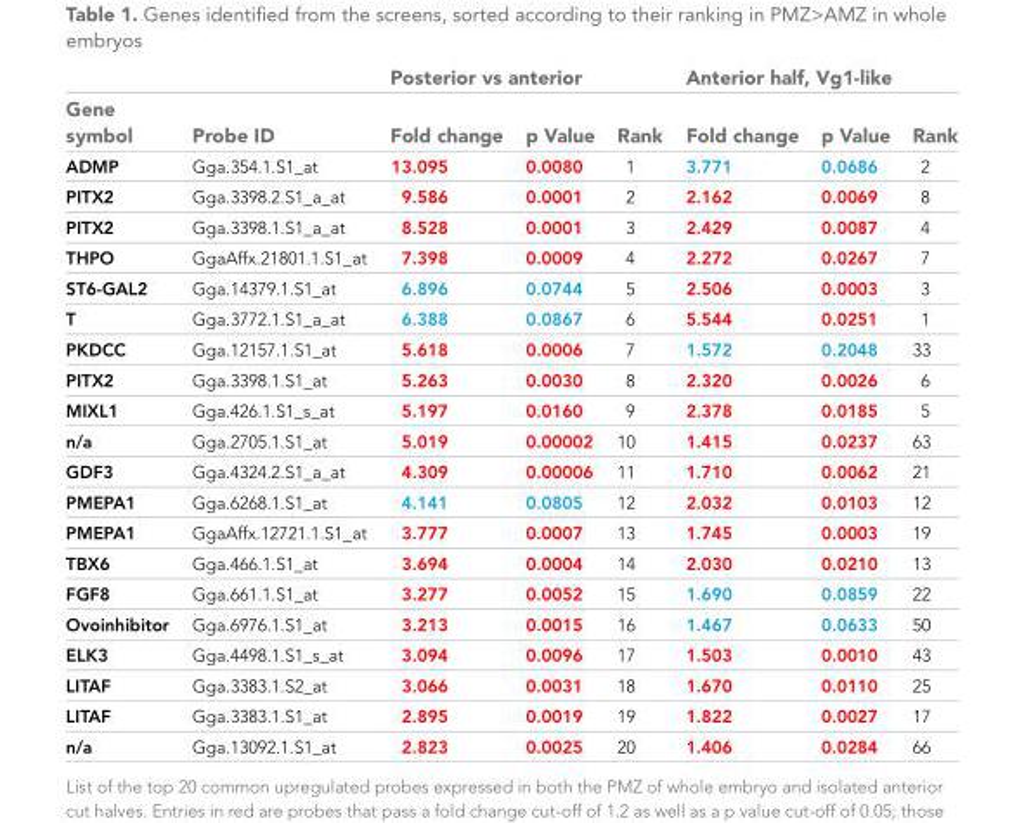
<table><thead><tr><td rowspan="2">Gene symbol</td><td rowspan="2">Probe ID</td><td colspan="3">Posterior vs anterior</td><td colspan="3">Anterior half, Vg1-like</td></tr><tr><td>Fold change</td><td>p Value</td><td>Rank</td><td>Fold change</td><td>p Value</td><td>Rank</td></tr></thead><tbody><tr><td>ADMP</td><td>Gga.354.1.S1_at</td><td>13.095</td><td>0.0080</td><td>1</td><td>3.771</td><td>0.0686</td><td>2</td></tr><tr><td>PITX2</td><td>Gga.3398.2.S1_a_at</td><td>9.586</td><td>0.0001</td><td>2</td><td>2.162</td><td>0.0069</td><td>8</td></tr><tr><td>PITX2</td><td>Gga.3398.1.S1_a_at</td><td>8.528</td><td>0.0001</td><td>3</td><td>2.429</td><td>0.0087</td><td>4</td></tr><tr><td>THPO</td><td>GgaAffx.21801.1.S1_at</td><td>7.398</td><td>0.0009</td><td>4</td><td>2.272</td><td>0.0267</td><td>7</td></tr><tr><td>ST6-GAL2</td><td>Gga.14379.1.S1_at</td><td>6.896</td><td>0.0744</td><td>5</td><td>2.506</td><td>0.0003</td><td>3</td></tr><tr><td>T</td><td>Gga.3772.1.S1_a_at</td><td>6.388</td><td>0.0867</td><td>6</td><td>5.544</td><td>0.0251</td><td>1</td></tr><tr><td>PKDCC</td><td>Gga.12157.1.S1_at</td><td>5.618</td><td>0.0006</td><td>7</td><td>1.572</td><td>0.2048</td><td>33</td></tr><tr><td>PITX2</td><td>Gga.3398.1.S1_at</td><td>5.263</td><td>0.0030</td><td>8</td><td>2.320</td><td>0.0026</td><td>6</td></tr><tr><td>MIXL1</td><td>Gga.426.1.S1_s_at</td><td>5.197</td><td>0.0160</td><td>9</td><td>2.378</td><td>0.0185</td><td>5</td></tr><tr><td>n/a</td><td>Gga.2705.1.S1_at</td><td>5.019</td><td>0.00002</td><td>10</td><td>1.415</td><td>0.0237</td><td>63</td></tr><tr><td>GDF3</td><td>Gga.4324.2.S1_a_at</td><td>4.309</td><td>0.00006</td><td>11</td><td>1.710</td><td>0.0062</td><td>21</td></tr><tr><td>PMEPA1</td><td>Gga.6268.1.S1_at</td><td>4.141</td><td>0.0805</td><td>12</td><td>2.032</td><td>0.0103</td><td>12</td></tr><tr><td>PMEPA1</td><td>GgaAffx.12721.1.S1_at</td><td>3.777</td><td>0.0007</td><td>13</td><td>1.745</td><td>0.0003</td><td>19</td></tr><tr><td>TBX6</td><td>Gga.466.1.S1_at</td><td>3.694</td><td>0.0004</td><td>14</td><td>2.030</td><td>0.0210</td><td>13</td></tr><tr><td>FGF8</td><td>Gga.661.1.S1_at</td><td>3.277</td><td>0.0052</td><td>15</td><td>1.690</td><td>0.0859</td><td>22</td></tr><tr><td>Ovoinhibitor</td><td>Gga.6976.1.S1_at</td><td>3.213</td><td>0.0015</td><td>16</td><td>1.467</td><td>0.0633</td><td>50</td></tr><tr><td>ELK3</td><td>Gga.4498.1.S1_s_at</td><td>3.094</td><td>0.0096</td><td>17</td><td>1.503</td><td>0.0010</td><td>43</td></tr><tr><td>LITAF</td><td>Gga.3383.1.S2_at</td><td>3.066</td><td>0.0031</td><td>18</td><td>1.670</td><td>0.0110</td><td>25</td></tr><tr><td>LITAF</td><td>Gga.3383.1.S1_at</td><td>2.895</td><td>0.0019</td><td>19</td><td>1.822</td><td>0.0027</td><td>17</td></tr><tr><td>n/a</td><td>Gga.13092.1.S1_at</td><td>2.823</td><td>0.0025</td><td>20</td><td>1.406</td><td>0.0284</td><td>66</td></tr></tbody></table>